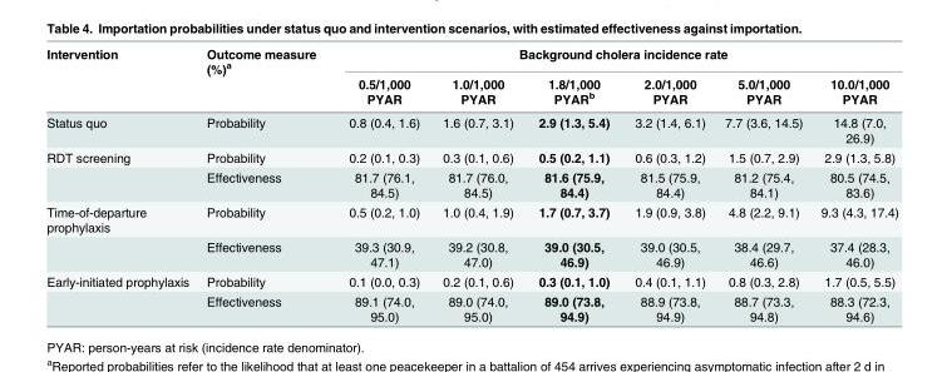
<table><thead><tr><td rowspan="2">Intervention</td><td rowspan="2">Outcome measure (%)<sup>a</sup></td><td colspan="6">Background cholera incidence rate</td></tr><tr><td>0.5/1,000 PYAR</td><td>1.0/1,000 PYAR</td><td>1.8/1,000 PYAR<sup>b</sup></td><td>2.0/1,000 PYAR</td><td>5.0/1,000 PYAR</td><td>10.0/1,000 PYAR</td></tr></thead><tbody><tr><td>Status quo</td><td>Probability</td><td>0.8 (0.4, 1.6)</td><td>1.6 (0.7, 3.1)</td><td>2.9 (1.3, 5.4)</td><td>3.2 (1.4, 6.1)</td><td>7.7 (3.6, 14.5)</td><td>14.8 (7.0, 26.9)</td></tr><tr><td rowspan="2">RDT screening</td><td>Probability</td><td>0.2 (0.1, 0.3)</td><td>0.3 (0.1, 0.6)</td><td>0.5 (0.2, 1.1)</td><td>0.6 (0.3, 1.2)</td><td>1.5 (0.7, 2.9)</td><td>2.9 (1.3, 5.8)</td></tr><tr><td>Effectiveness</td><td>81.7 (76.1, 84.5)</td><td>81.7 (76.0, 84.5)</td><td>81.6 (75.9, 84.4)</td><td>81.5 (75.9, 84.4)</td><td>81.2 (75.4, 84.1)</td><td>80.5 (74.5, 83.6)</td></tr><tr><td rowspan="2">Time-of-departure prophylaxis</td><td>Probability</td><td>0.5 (0.2, 1.0)</td><td>1.0 (0.4, 1.9)</td><td>1.7 (0.7, 3.7)</td><td>1.9 (0.9, 3.8)</td><td>4.8 (2.2, 9.1)</td><td>9.3 (4.3, 17.4)</td></tr><tr><td>Effectiveness</td><td>39.3 (30.9, 47.1)</td><td>39.2 (30.8, 47.0)</td><td>39.0 (30.5, 46.9)</td><td>39.0 (30.5, 46.9)</td><td>38.4 (29.7, 46.6)</td><td>37.4 (28.3, 46.0)</td></tr><tr><td rowspan="2">Early-initiated prophylaxis</td><td>Probability</td><td>0.1 (0.0, 0.3)</td><td>0.2 (0.1, 0.6)</td><td>0.3 (0.1, 1.0)</td><td>0.4 (0.1, 1.1)</td><td>0.8 (0.3, 2.8)</td><td>1.7 (0.5, 5.5)</td></tr><tr><td>Effectiveness</td><td>89.1 (74.0, 95.0)</td><td>89.0 (74.0, 95.0)</td><td>89.0 (73.8, 94.9)</td><td>88.9 (73.8, 94.9)</td><td>88.7 (73.3, 94.8)</td><td>88.3 (72.3, 94.6)</td></tr></tbody></table>